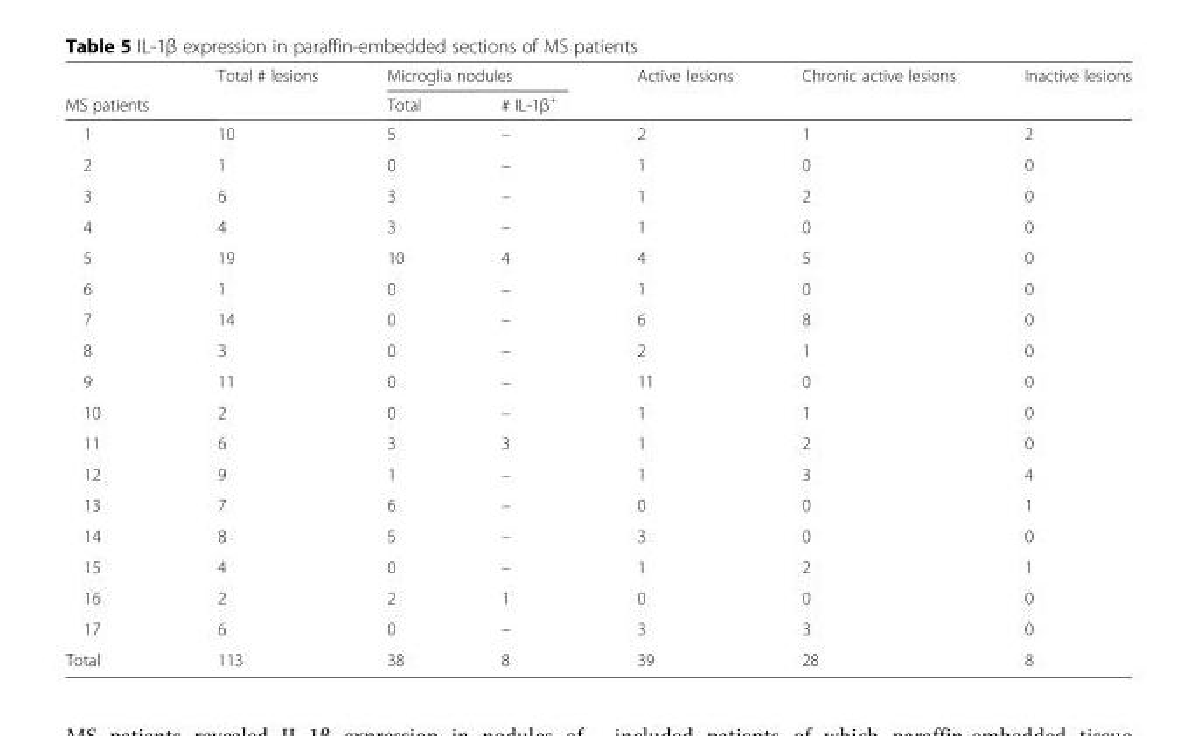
<table><thead><tr><td rowspan="2">MS patients</td><td rowspan="2">Total # lesions</td><td colspan="2">Microglia nodules</td><td rowspan="2">Active lesions</td><td rowspan="2">Chronic active lesions</td><td rowspan="2">Inactive lesions</td></tr><tr><td>Total</td><td># IL-1β<sup>+</sup></td></tr></thead><tbody><tr><td>1</td><td>10</td><td>5</td><td>–</td><td>2</td><td>1</td><td>2</td></tr><tr><td>2</td><td>1</td><td>0</td><td>–</td><td>1</td><td>0</td><td>0</td></tr><tr><td>3</td><td>6</td><td>3</td><td>–</td><td>1</td><td>2</td><td>0</td></tr><tr><td>4</td><td>4</td><td>3</td><td>–</td><td>1</td><td>0</td><td>0</td></tr><tr><td>5</td><td>19</td><td>10</td><td>4</td><td>4</td><td>5</td><td>0</td></tr><tr><td>6</td><td>1</td><td>0</td><td>–</td><td>1</td><td>0</td><td>0</td></tr><tr><td>7</td><td>14</td><td>0</td><td>–</td><td>6</td><td>8</td><td>0</td></tr><tr><td>8</td><td>3</td><td>0</td><td>–</td><td>2</td><td>1</td><td>0</td></tr><tr><td>9</td><td>11</td><td>0</td><td>–</td><td>11</td><td>0</td><td>0</td></tr><tr><td>10</td><td>2</td><td>0</td><td>–</td><td>1</td><td>1</td><td>0</td></tr><tr><td>11</td><td>6</td><td>3</td><td>3</td><td>1</td><td>2</td><td>0</td></tr><tr><td>12</td><td>9</td><td>1</td><td>–</td><td>1</td><td>3</td><td>4</td></tr><tr><td>13</td><td>7</td><td>6</td><td>–</td><td>0</td><td>0</td><td>1</td></tr><tr><td>14</td><td>8</td><td>5</td><td>–</td><td>3</td><td>0</td><td>0</td></tr><tr><td>15</td><td>4</td><td>0</td><td>–</td><td>1</td><td>2</td><td>1</td></tr><tr><td>16</td><td>2</td><td>2</td><td>1</td><td>0</td><td>0</td><td>0</td></tr><tr><td>17</td><td>6</td><td>0</td><td>–</td><td>3</td><td>3</td><td>0</td></tr><tr><td>Total</td><td>113</td><td>38</td><td>8</td><td>39</td><td>28</td><td>8</td></tr></tbody></table>